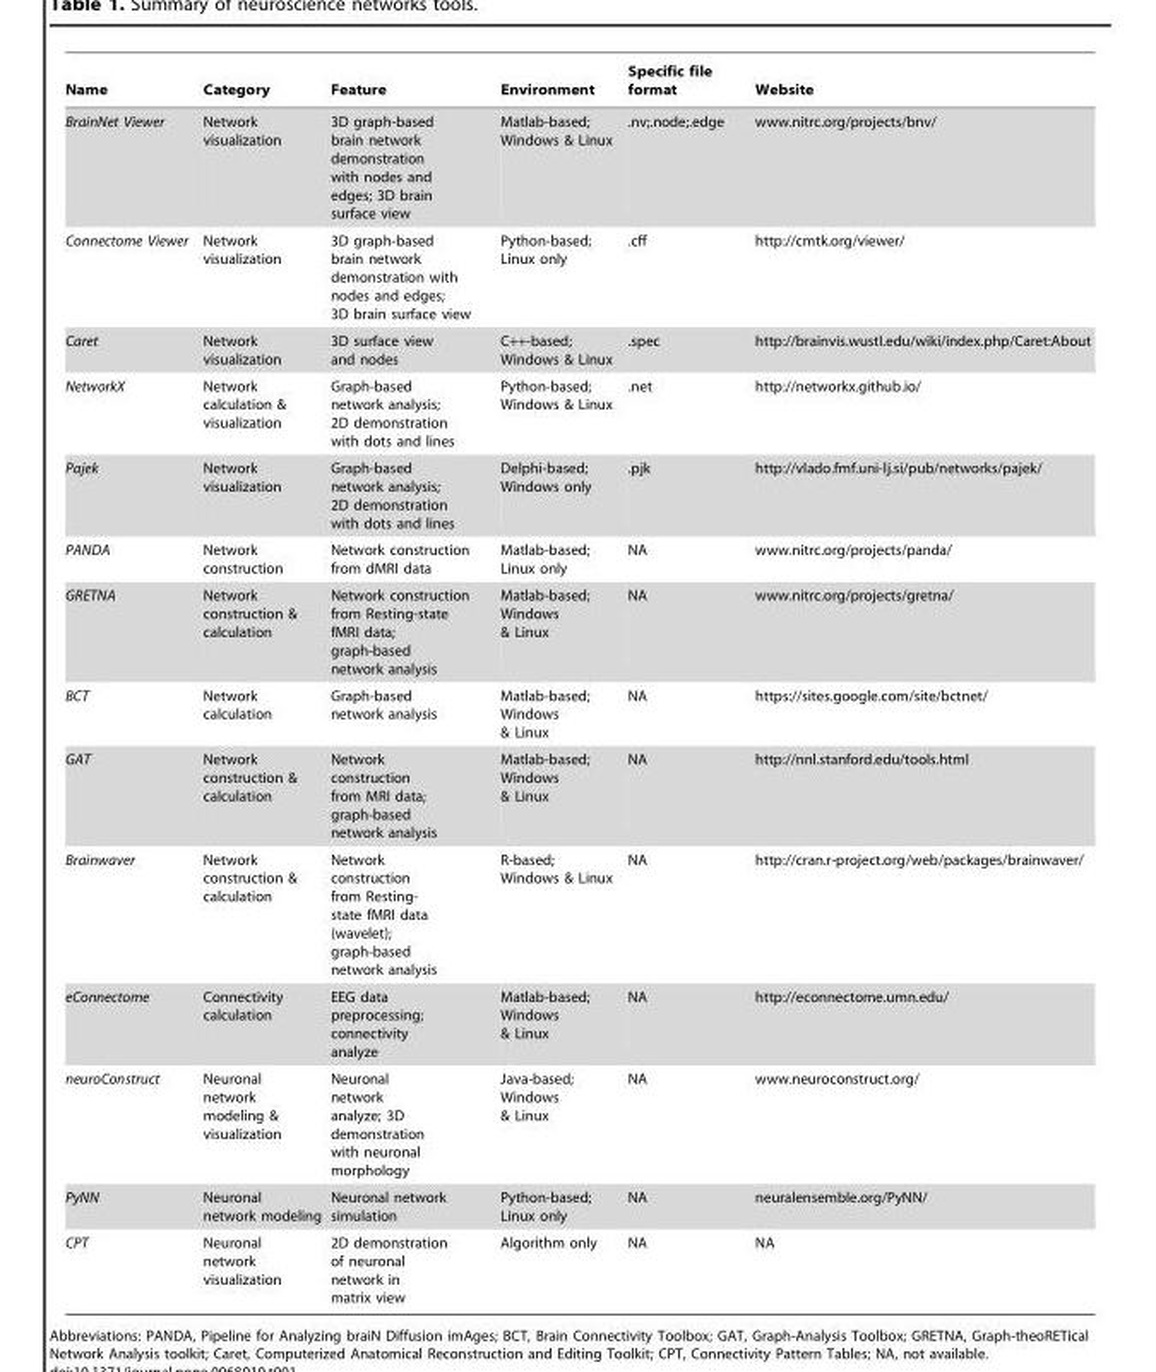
<table><thead><tr><td>Name</td><td>Category</td><td>Feature</td><td>Environment</td><td>Specific file format</td><td>Website</td></tr></thead><tbody><tr><td>BrainNet Viewer</td><td>Network visualization</td><td>3D graph-based brain network demonstration with nodes and edges; 3D brain surface view</td><td>Matlab-based; Windows &amp; Linux</td><td>.nv;.node;.edge</td><td>www.nitrc.org/projects/bnv/</td></tr><tr><td>Connectome Viewer</td><td>Network visualization</td><td>3D graph-based brain network demonstration with nodes and edges; 3D brain surface view</td><td>Python-based; Linux only</td><td>.cff</td><td>http://cmtk.org/viewer/</td></tr><tr><td>Caret</td><td>Network visualization</td><td>3D surface view and nodes</td><td>C++-based; Windows &amp; Linux</td><td>.spec</td><td>http://brainvis.wustl.edu/wiki/index.php/Caret:About</td></tr><tr><td>NetworkX</td><td>Network calculation &amp; visualization</td><td>Graph-based network analysis; 2D demonstration with dots and lines</td><td>Python-based; Windows &amp; Linux</td><td>.net</td><td>http://networkx.github.io/</td></tr><tr><td>Pajek</td><td>Network visualization</td><td>Graph-based network analysis; 2D demonstration with dots and lines</td><td>Delphi-based; Windows only</td><td>.pjk</td><td>http://vlado.fmf.uni-lj.si/pub/networks/pajek/</td></tr><tr><td>PANDA</td><td>Network construction</td><td>Network construction from dMRI data</td><td>Matlab-based; Linux only</td><td>NA</td><td>www.nitrc.org/projects/panda/</td></tr><tr><td>GRETNA</td><td>Network construction &amp; calculation</td><td>Network construction from Resting-state fMRI data; graph-based network analysis</td><td>Matlab-based; Windows &amp; Linux</td><td>NA</td><td>www.nitrc.org/projects/gretna/</td></tr><tr><td>BCT</td><td>Network calculation</td><td>Graph-based network analysis</td><td>Matlab-based; Windows &amp; Linux</td><td>NA</td><td>https://sites.google.com/site/bctnet/</td></tr><tr><td>GAT</td><td>Network construction &amp; calculation</td><td>Network construction from MRI data; graph-based network analysis</td><td>Matlab-based; Windows &amp; Linux</td><td>NA</td><td>http://nnl.stanford.edu/tools.html</td></tr><tr><td>Brainwaver</td><td>Network construction &amp; calculation</td><td>Network construction from Resting- state fMRI data (wavelet); graph-based network analysis</td><td>R-based; Windows &amp; Linux</td><td>NA</td><td>http://cran.r-project.org/web/packages/brainwaver/</td></tr><tr><td>eConnectome</td><td>Connectivity calculation</td><td>EEG data preprocessing; connectivity analyze</td><td>Matlab-based; Windows &amp; Linux</td><td>NA</td><td>http://econnectome.umn.edu/</td></tr><tr><td>neuroConstruct</td><td>Neuronal network modeling &amp; visualization</td><td>Neuronal network analyze; 3D demonstration with neuronal morphology</td><td>Java-based; Windows &amp; Linux</td><td>NA</td><td>www.neuroconstruct.org/</td></tr><tr><td>PyNN</td><td>Neuronal network modeling</td><td>Neuronal network simulation</td><td>Python-based; Linux only</td><td>NA</td><td>neuralensemble.org/PyNN/</td></tr><tr><td>CPT</td><td>Neuronal network visualization</td><td>2D demonstration of neuronal network in matrix view</td><td>Algorithm only</td><td>NA</td><td>NA</td></tr></tbody></table>